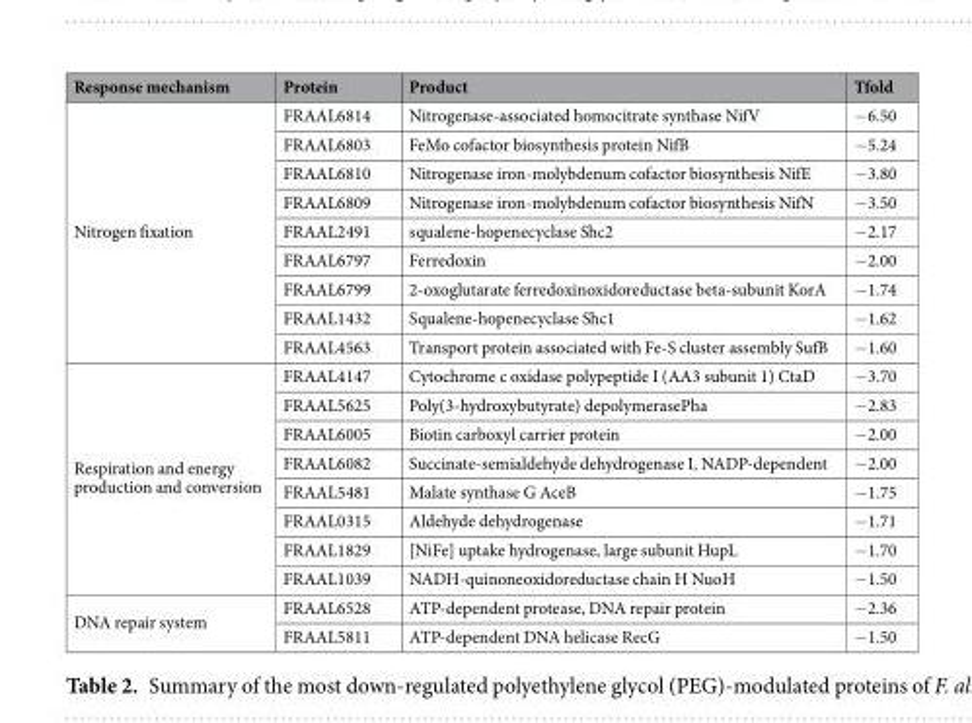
<table><thead><tr><td>Response mechanism</td><td>Protein</td><td>Product</td><td>Tfold</td></tr></thead><tbody><tr><td rowspan="9">Nitrogen fixation</td><td>FRAAL6814</td><td>Nitrogenase-associated homocitrate synthase NifV</td><td>−6.50</td></tr><tr><td>FRAAL6803</td><td>FeMo cofactor biosynthesis protein NifB</td><td>−5.24</td></tr><tr><td>FRAAL6810</td><td>Nitrogenase iron-molybdenum cofactor biosynthesis NifE</td><td>−3.80</td></tr><tr><td>FRAAL6809</td><td>Nitrogenase iron-molybdenum cofactor biosynthesis NifN</td><td>−3.50</td></tr><tr><td>FRAAL2491</td><td>squalene-hopenecyclase Shc2</td><td>−2.17</td></tr><tr><td>FRAAL6797</td><td>Ferredoxin</td><td>−2.00</td></tr><tr><td>FRAAL6799</td><td>2-oxoglutarate ferredoxinoxidoreductase beta-subunit KorA</td><td>−1.74</td></tr><tr><td>FRAAL1432</td><td>Squalene-hopenecyclase Shc1</td><td>−1.62</td></tr><tr><td>FRAAL4563</td><td>Transport protein associated with Fe-S cluster assembly SufB</td><td>−1.60</td></tr><tr><td rowspan="8">Respiration and energy production and conversion</td><td>FRAAL4147</td><td>Cytochrome c oxidase polypeptide I (AA3 subunit 1) CtaD</td><td>−3.70</td></tr><tr><td>FRAAL5625</td><td>Poly(3-hydroxybutyrate) depolymerasePha</td><td>−2.83</td></tr><tr><td>FRAAL6005</td><td>Biotin carboxyl carrier protein</td><td>−2.00</td></tr><tr><td>FRAAL6082</td><td>Succinate-semialdehyde dehydrogenase I, NADP-dependent</td><td>−2.00</td></tr><tr><td>FRAAL5481</td><td>Malate synthase G AceB</td><td>−1.75</td></tr><tr><td>FRAAL0315</td><td>Aldehyde dehydrogenase</td><td>−1.71</td></tr><tr><td>FRAAL1829</td><td>[NiFe] uptake hydrogenase, large subunit HupL</td><td>−1.70</td></tr><tr><td>FRAAL1039</td><td>NADH-quinoneoxidoreductase chain H NuoH</td><td>−1.50</td></tr><tr><td rowspan="2">DNA repair system</td><td>FRAAL6528</td><td>ATP-dependent protease, DNA repair protein</td><td>−2.36</td></tr><tr><td>FRAAL5811</td><td>ATP-dependent DNA helicase RecG</td><td>−1.50</td></tr></tbody></table>